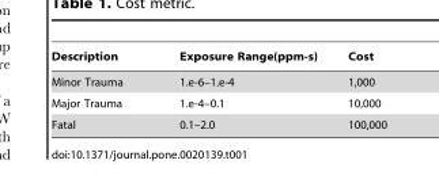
<table><thead><tr><td>Description</td><td>Exposure Range(ppm-s)</td><td>Cost</td></tr></thead><tbody><tr><td>Minor Trauma</td><td>1.e-6–1.e-4</td><td>1,000</td></tr><tr><td>Major Trauma</td><td>1.e-4–0.1</td><td>10,000</td></tr><tr><td>Fatal</td><td>0.1–2.0</td><td>100,000</td></tr></tbody></table>